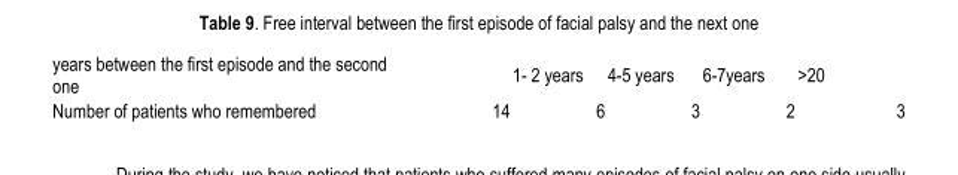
<table><tbody><tr><td>years between the first episode and the second one</td><td></td><td>1- 2 years</td><td>4-5 years</td><td>6-7years</td><td>&gt;20</td></tr><tr><td>Number of patients who remembered</td><td>14</td><td>6</td><td>3</td><td>2</td><td>3</td></tr></tbody></table>